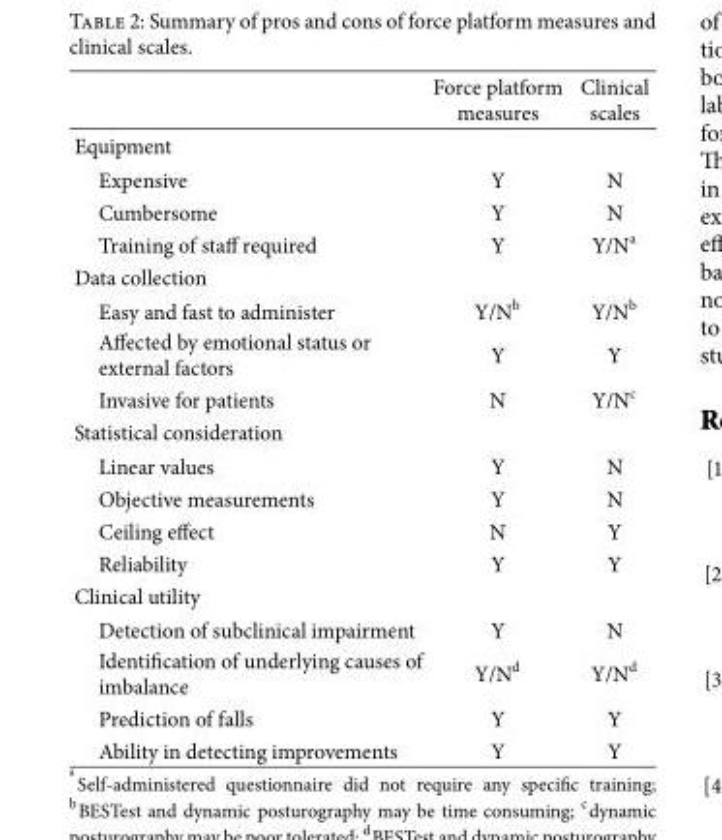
<table><thead><tr><td></td><td>Force platform measures</td><td>Clinical scales</td></tr></thead><tbody><tr><td colspan="3">Equipment</td></tr><tr><td>Expensive</td><td>Y</td><td>N</td></tr><tr><td>Cumbersome</td><td>Y</td><td>N</td></tr><tr><td>Training of staff required</td><td>Y</td><td>Y/N<sup>a</sup></td></tr><tr><td colspan="3">Data collection</td></tr><tr><td>Easy and fast to administer</td><td>Y/N<sup>b</sup></td><td>Y/N<sup>b</sup></td></tr><tr><td>Affected by emotional status or external factors</td><td>Y</td><td>Y</td></tr><tr><td>Invasive for patients</td><td>N</td><td>Y/N<sup>c</sup></td></tr><tr><td colspan="3">Statistical consideration</td></tr><tr><td>Linear values</td><td>Y</td><td>N</td></tr><tr><td>Objective measurements</td><td>Y</td><td>N</td></tr><tr><td>Ceiling effect</td><td>N</td><td>Y</td></tr><tr><td>Reliability</td><td>Y</td><td>Y</td></tr><tr><td colspan="3">Clinical utility</td></tr><tr><td>Detection of subclinical impairment</td><td>Y</td><td>N</td></tr><tr><td>Identification of underlying causes of imbalance</td><td>Y/N<sup>d</sup></td><td>Y/N<sup>d</sup></td></tr><tr><td>Prediction of falls</td><td>Y</td><td>Y</td></tr><tr><td>Ability in detecting improvements</td><td>Y</td><td>Y</td></tr></tbody></table>